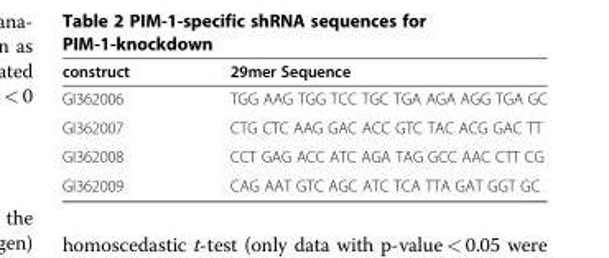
<table><thead><tr><td>construct</td><td>29mer Sequence</td></tr></thead><tbody><tr><td>GI362006</td><td>TGG AAG TGG TCC TGC TGA AGA AGG TGA GC</td></tr><tr><td>GI362007</td><td>CTG CTC AAG GAC ACC GTC TAC ACG GAC TT</td></tr><tr><td>GI362008</td><td>CCT GAG ACC ATC AGA TAG GCC AAC CTT CG</td></tr><tr><td>GI362009</td><td>CAG AAT GTC AGC ATC TCA TTA GAT GGT GC</td></tr></tbody></table>